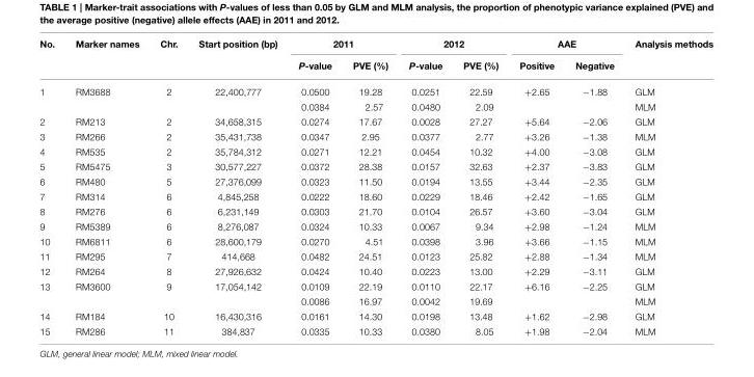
<table><thead><tr><td rowspan="2">No.</td><td rowspan="2">Marker names</td><td rowspan="2">Chr.</td><td rowspan="2">Start position (bp)</td><td colspan="2">2011</td><td colspan="2">2012</td><td colspan="2">AAE</td><td rowspan="2">Analysis methods</td></tr><tr><td>P-value</td><td>PVE (%)</td><td>P-value</td><td>PVE (%)</td><td>Positive</td><td>Negative</td></tr></thead><tbody><tr><td rowspan="2">1</td><td>RM3688</td><td>2</td><td>22,400,777</td><td>0.0500</td><td>19.28</td><td>0.0251</td><td>22.59</td><td>+2.65</td><td>−1.88</td><td>GLM</td></tr><tr><td></td><td></td><td></td><td>0.0384</td><td>2.57</td><td>0.0480</td><td>2.09</td><td></td><td></td><td>MLM</td></tr><tr><td>2</td><td>RM213</td><td>2</td><td>34,658,315</td><td>0.0274</td><td>17.67</td><td>0.0028</td><td>27.27</td><td>+5.64</td><td>−2.06</td><td>GLM</td></tr><tr><td>3</td><td>RM266</td><td>2</td><td>35,431,738</td><td>0.0347</td><td>2.95</td><td>0.0377</td><td>2.77</td><td>+3.26</td><td>−1.38</td><td>MLM</td></tr><tr><td>4</td><td>RM535</td><td>2</td><td>35,784,312</td><td>0.0271</td><td>12.21</td><td>0.0454</td><td>10.32</td><td>+4.00</td><td>−3.08</td><td>GLM</td></tr><tr><td>5</td><td>RM5475</td><td>3</td><td>30,577,227</td><td>0.0372</td><td>28.38</td><td>0.0157</td><td>32.63</td><td>+2.37</td><td>−3.83</td><td>GLM</td></tr><tr><td>6</td><td>RM480</td><td>5</td><td>27,376,099</td><td>0.0323</td><td>11.50</td><td>0.0194</td><td>13.55</td><td>+3.44</td><td>−2.35</td><td>GLM</td></tr><tr><td>7</td><td>RM314</td><td>6</td><td>4,845,258</td><td>0.0222</td><td>18.60</td><td>0.0229</td><td>18.46</td><td>+2.42</td><td>−1.65</td><td>GLM</td></tr><tr><td>8</td><td>RM276</td><td>6</td><td>6,231,149</td><td>0.0303</td><td>21.70</td><td>0.0104</td><td>26.57</td><td>+3.60</td><td>−3.04</td><td>GLM</td></tr><tr><td>9</td><td>RM5389</td><td>6</td><td>8,276,087</td><td>0.0324</td><td>10.33</td><td>0.0067</td><td>9.34</td><td>+2.98</td><td>−1.24</td><td>MLM</td></tr><tr><td>10</td><td>RM6811</td><td>6</td><td>28,600,179</td><td>0.0270</td><td>4.51</td><td>0.0398</td><td>3.96</td><td>+3.66</td><td>−1.15</td><td>MLM</td></tr><tr><td>11</td><td>RM295</td><td>7</td><td>414,668</td><td>0.0482</td><td>24.51</td><td>0.0123</td><td>25.82</td><td>+2.88</td><td>−1.34</td><td>MLM</td></tr><tr><td>12</td><td>RM264</td><td>8</td><td>27,926,632</td><td>0.0424</td><td>10.40</td><td>0.0223</td><td>13.00</td><td>+2.29</td><td>−3.11</td><td>GLM</td></tr><tr><td rowspan="2">13</td><td>RM3600</td><td>9</td><td>17,054,142</td><td>0.0109</td><td>22.19</td><td>0.0110</td><td>22.17</td><td>+6.16</td><td>−2.25</td><td>GLM</td></tr><tr><td></td><td></td><td></td><td>0.0086</td><td>16.97</td><td>0.0042</td><td>19.69</td><td></td><td></td><td>MLM</td></tr><tr><td>14</td><td>RM184</td><td>10</td><td>16,430,316</td><td>0.0161</td><td>14.30</td><td>0.0198</td><td>13.48</td><td>+1.62</td><td>−2.98</td><td>GLM</td></tr><tr><td>15</td><td>RM286</td><td>11</td><td>384,837</td><td>0.0335</td><td>10.33</td><td>0.0380</td><td>8.05</td><td>+1.98</td><td>−2.04</td><td>MLM</td></tr></tbody></table>